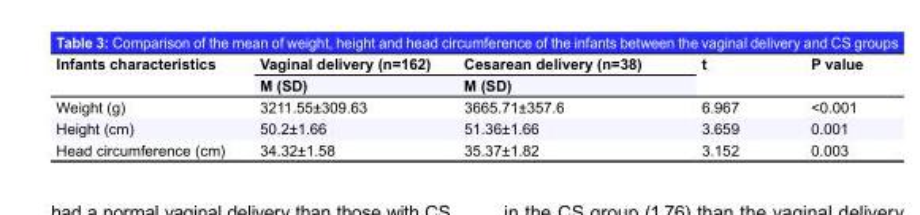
<table><thead><tr><td rowspan="2">Infants characteristics</td><td rowspan="2">Vaginal delivery (n=162) M (SD)</td><td rowspan="2">Cesarean delivery (n=38) M (SD)</td><td rowspan="2">t</td><td rowspan="2">P value</td></tr><tr></tr></thead><tbody><tr><td>Weight (g)</td><td>3211.55±309.63</td><td>3665.71±357.6</td><td>6.967</td><td>&lt;0.001</td></tr><tr><td>Height (cm)</td><td>50.2±1.66</td><td>51.36±1.66</td><td>3.659</td><td>0.001</td></tr><tr><td>Head circumference (cm)</td><td>34.32±1.58</td><td>35.37±1.82</td><td>3.152</td><td>0.003</td></tr></tbody></table>